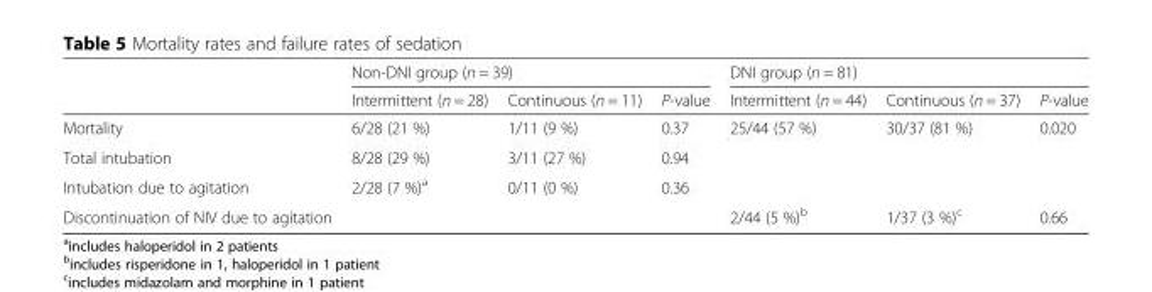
<table><thead><tr><td rowspan="2"></td><td colspan="3">Non-DNI group (n = 39)</td><td colspan="3">DNI group (n = 81)</td></tr><tr><td>Intermittent (n = 28)</td><td>Continuous (n = 11)</td><td>P-value</td><td>Intermittent (n = 44)</td><td>Continuous (n = 37)</td><td>P-value</td></tr></thead><tbody><tr><td>Mortality</td><td>6/28 (21 %)</td><td>1/11 (9 %)</td><td>0.37</td><td>25/44 (57 %)</td><td>30/37 (81 %)</td><td>0.020</td></tr><tr><td>Total intubation</td><td>8/28 (29 %)</td><td>3/11 (27 %)</td><td>0.94</td><td></td><td></td><td></td></tr><tr><td>Intubation due to agitation</td><td>2/28 (7 %)<sup>a</sup></td><td>0/11 (0 %)</td><td>0.36</td><td></td><td></td><td></td></tr><tr><td>Discontinuation of NIV due to agitation</td><td></td><td></td><td></td><td>2/44 (5 %)<sup>b</sup></td><td>1/37 (3 %)<sup>c</sup></td><td>0.66</td></tr></tbody></table>